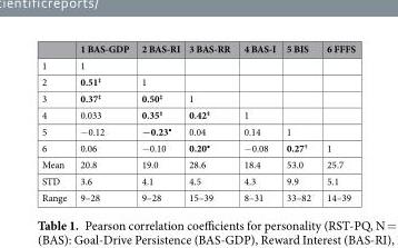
<table><thead><tr><td></td><td>1 BAS-GDP</td><td>2 BAS-RI</td><td>3 BAS-RR</td><td>4 BAS-I</td><td>5 BIS</td><td>6 FFFS</td></tr></thead><tbody><tr><td>1</td><td>1</td><td></td><td></td><td></td><td></td><td></td></tr><tr><td>2</td><td>0.51<sup>‡</sup></td><td>1</td><td></td><td></td><td></td><td></td></tr><tr><td>3</td><td>0.37<sup>‡</sup></td><td>0.50<sup>‡</sup></td><td>1</td><td></td><td></td><td></td></tr><tr><td>4</td><td>0.033</td><td>0.35<sup>‡</sup></td><td>0.42<sup>‡</sup></td><td>1</td><td></td><td></td></tr><tr><td>5</td><td>−0.12</td><td>−0.23<sup>•</sup></td><td>0.04</td><td>0.14</td><td>1</td><td></td></tr><tr><td>6</td><td>0.06</td><td>−0.10</td><td>0.20<sup>•</sup></td><td>−0.08</td><td>0.27<sup>†</sup></td><td>1</td></tr><tr><td>Mean</td><td>20.8</td><td>19.0</td><td>28.6</td><td>18.4</td><td>53.0</td><td>25.7</td></tr><tr><td>STD</td><td>3.6</td><td>4.1</td><td>4.5</td><td>4.3</td><td>9.9</td><td>5.1</td></tr><tr><td>Range</td><td>9–28</td><td>9–28</td><td>15–39</td><td>8–31</td><td>33–82</td><td>14–39</td></tr></tbody></table>